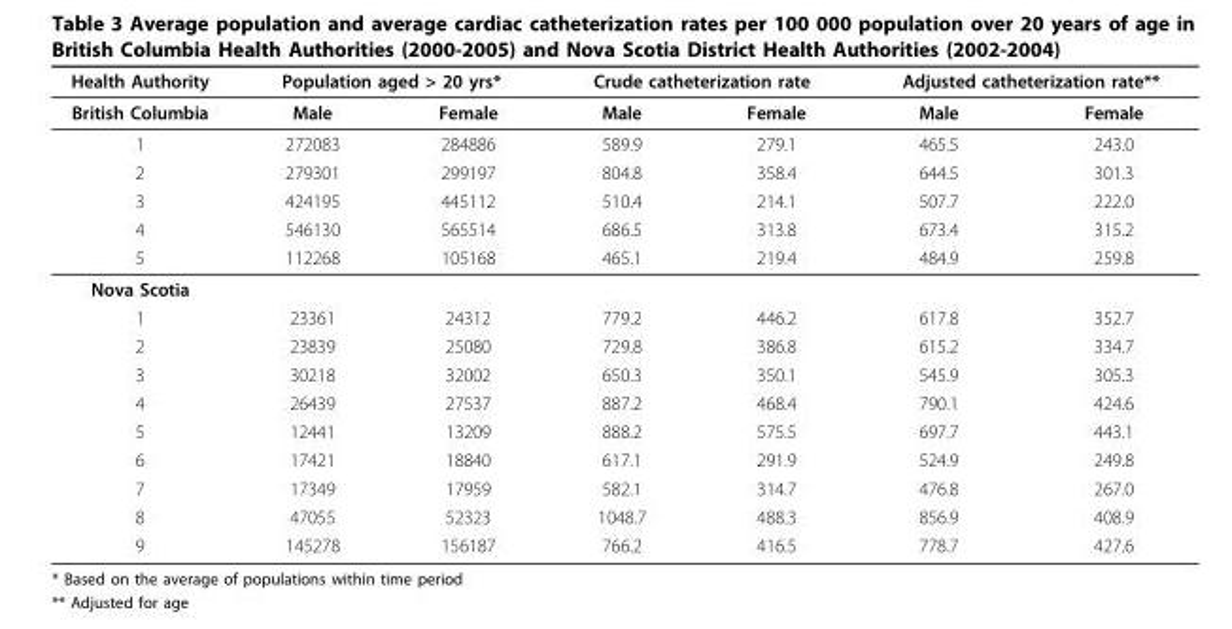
<table><thead><tr><td rowspan="2">Health Authority British Columbia</td><td colspan="2">Population aged &gt; 20 yrs*</td><td colspan="2">Crude catheterization rate</td><td colspan="2">Adjusted catheterization rate**</td></tr><tr><td>Male</td><td>Female</td><td>Male</td><td>Female</td><td>Male</td><td>Female</td></tr></thead><tbody><tr><td>1</td><td>272083</td><td>284886</td><td>589.9</td><td>279.1</td><td>465.5</td><td>243.0</td></tr><tr><td>2</td><td>279301</td><td>299197</td><td>804.8</td><td>358.4</td><td>644.5</td><td>301.3</td></tr><tr><td>3</td><td>424195</td><td>445112</td><td>510.4</td><td>214.1</td><td>507.7</td><td>222.0</td></tr><tr><td>4</td><td>546130</td><td>565514</td><td>686.5</td><td>313.8</td><td>673.4</td><td>315.2</td></tr><tr><td>5</td><td>112268</td><td>105168</td><td>465.1</td><td>219.4</td><td>484.9</td><td>259.8</td></tr><tr><td colspan="7">Nova Scotia</td></tr><tr><td>1</td><td>23361</td><td>24312</td><td>779.2</td><td>446.2</td><td>617.8</td><td>352.7</td></tr><tr><td>2</td><td>23839</td><td>25080</td><td>729.8</td><td>386.8</td><td>615.2</td><td>334.7</td></tr><tr><td>3</td><td>30218</td><td>32002</td><td>650.3</td><td>350.1</td><td>545.9</td><td>305.3</td></tr><tr><td>4</td><td>26439</td><td>27537</td><td>887.2</td><td>468.4</td><td>790.1</td><td>424.6</td></tr><tr><td>5</td><td>12441</td><td>13209</td><td>888.2</td><td>575.5</td><td>697.7</td><td>443.1</td></tr><tr><td>6</td><td>17421</td><td>18840</td><td>617.1</td><td>291.9</td><td>524.9</td><td>249.8</td></tr><tr><td>7</td><td>17349</td><td>17959</td><td>582.1</td><td>314.7</td><td>476.8</td><td>267.0</td></tr><tr><td>8</td><td>47055</td><td>52323</td><td>1048.7</td><td>488.3</td><td>856.9</td><td>408.9</td></tr><tr><td>9</td><td>145278</td><td>156187</td><td>766.2</td><td>416.5</td><td>778.7</td><td>427.6</td></tr></tbody></table>